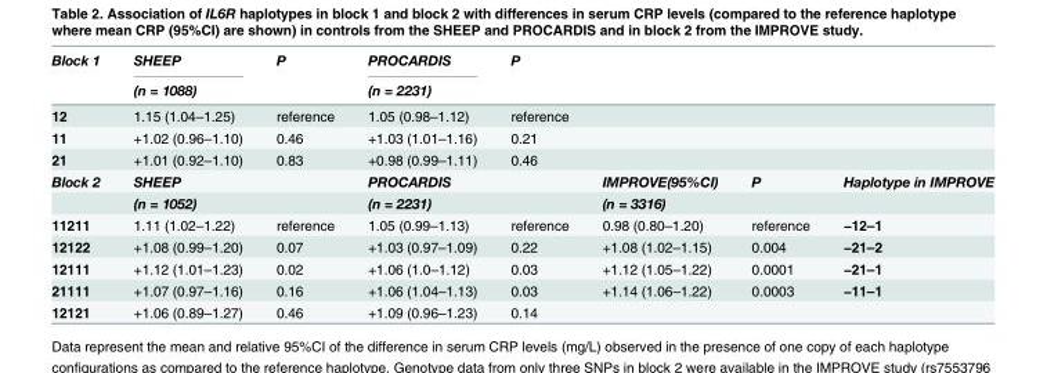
<table><thead><tr><td rowspan="2">Block 1</td><td rowspan="2">SHEEP (n = 1088)</td><td rowspan="2">P</td><td rowspan="2">PROCARDIS (n = 2231)</td><td rowspan="2">P</td><td rowspan="2"></td><td rowspan="2"></td><td rowspan="2"></td></tr><tr></tr></thead><tbody><tr><td>12</td><td>1.15 (1.04–1.25)</td><td>reference</td><td>1.05 (0.98–1.12)</td><td>reference</td><td></td><td></td><td></td></tr><tr><td>11</td><td>+1.02 (0.96–1.10)</td><td>0.46</td><td>+1.03 (1.01–1.16)</td><td>0.21</td><td></td><td></td><td></td></tr><tr><td>21</td><td>+1.01 (0.92–1.10)</td><td>0.83</td><td>+0.98 (0.99–1.11)</td><td>0.46</td><td></td><td></td><td></td></tr><tr><td rowspan="2">Block 2</td><td>SHEEP</td><td></td><td>PROCARDIS</td><td></td><td>IMPROVE(95%CI)</td><td>P</td><td>Haplotype in IMPROVE</td></tr><tr><td>(n = 1052)</td><td></td><td>(n = 2231)</td><td></td><td>(n = 3316)</td><td></td><td></td></tr><tr><td>11211</td><td>1.11 (1.02–1.22)</td><td>reference</td><td>1.05 (0.99–1.13)</td><td>reference</td><td>0.98 (0.80–1.20)</td><td>reference</td><td>−12–1</td></tr><tr><td>12122</td><td>+1.08 (0.99–1.20)</td><td>0.07</td><td>+1.03 (0.97–1.09)</td><td>0.22</td><td>+1.08 (1.02–1.15)</td><td>0.004</td><td>−21–2</td></tr><tr><td>12111</td><td>+1.12 (1.01–1.23)</td><td>0.02</td><td>+1.06 (1.0–1.12)</td><td>0.03</td><td>+1.12 (1.05–1.22)</td><td>0.0001</td><td>−21–1</td></tr><tr><td>21111</td><td>+1.07 (0.97–1.16)</td><td>0.16</td><td>+1.06 (1.04–1.13)</td><td>0.03</td><td>+1.14 (1.06–1.22)</td><td>0.0003</td><td>−11–1</td></tr><tr><td>12121</td><td>+1.06 (0.89–1.27)</td><td>0.46</td><td>+1.09 (0.96–1.23)</td><td>0.14</td><td></td><td></td><td></td></tr></tbody></table>